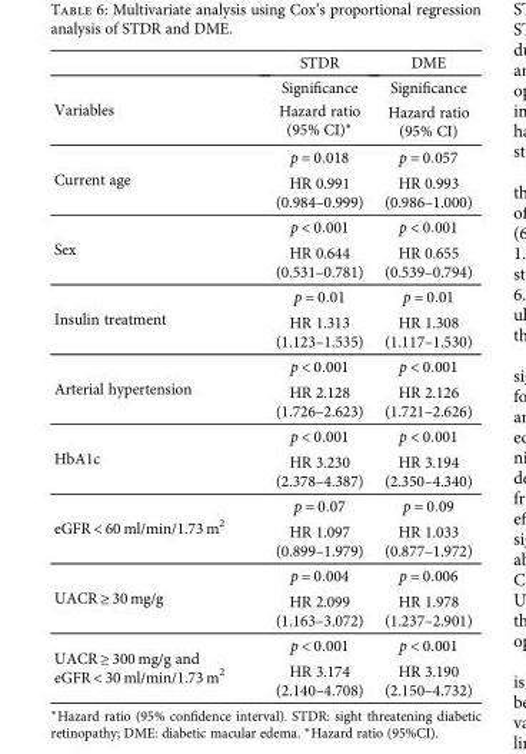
<table><thead><tr><td></td><td>STDR</td><td>DME</td></tr></thead><tbody><tr><td rowspan="2">Variables</td><td>Significance</td><td>Significance</td></tr><tr><td>Hazard ratio (95% CI)∗</td><td>Hazard ratio (95% CI)</td></tr><tr><td rowspan="2">Current age</td><td>p = 0 018</td><td>p = 0 057</td></tr><tr><td>HR 0.991 (0.984–0.999)</td><td>HR 0.993 (0.986–1.000)</td></tr><tr><td rowspan="2">Sex</td><td>p &lt; 0 001</td><td>p &lt; 0 001</td></tr><tr><td>HR 0.644 (0.531–0.781)</td><td>HR 0.655 (0.539–0.794)</td></tr><tr><td rowspan="2">Insulin treatment</td><td>p = 0 01</td><td>p = 0 01</td></tr><tr><td>HR 1.313 (1.123–1.535)</td><td>HR 1.308 (1.117–1.530)</td></tr><tr><td rowspan="2">Arterial hypertension</td><td>p &lt; 0 001</td><td>p &lt; 0 001</td></tr><tr><td>HR 2.128 (1.726–2.623)</td><td>HR 2.126 (1.721–2.626)</td></tr><tr><td rowspan="2">HbA1c</td><td>p &lt; 0 001</td><td>p &lt; 0 001</td></tr><tr><td>HR 3.230 (2.378–4.387)</td><td>HR 3.194 (2.350–4.340)</td></tr><tr><td rowspan="2">eGFR &lt; 60 ml/min/1.73 m2</td><td>p = 0 07</td><td>p = 0 09</td></tr><tr><td>HR 1.097 (0.899–1.979)</td><td>HR 1.033 (0.877–1.972)</td></tr><tr><td rowspan="2">UACR ≥ 30 mg/g</td><td>p = 0 004</td><td>p = 0 006</td></tr><tr><td>HR 2.099 (1.163–3.072)</td><td>HR 1.978 (1.237–2.901)</td></tr><tr><td rowspan="2">UACR ≥ 300 mg/g and eGFR &lt; 30 ml/min/1.73 m2</td><td>p &lt; 0 001</td><td>p &lt; 0 001</td></tr><tr><td>HR 3.174 (2.140–4.708)</td><td>HR 3.190 (2.150–4.732)</td></tr></tbody></table>